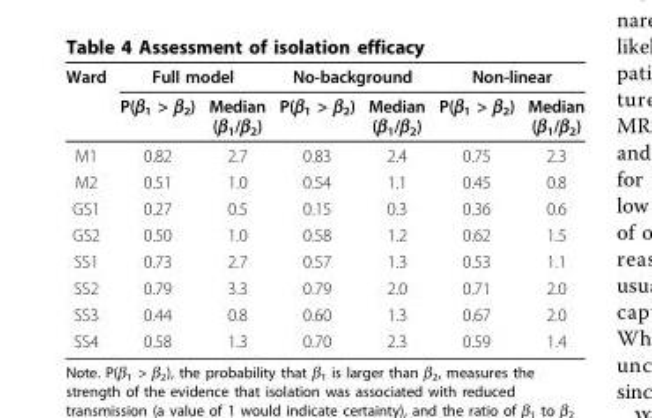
<table><thead><tr><td rowspan="2">Ward</td><td colspan="2">Full model</td><td colspan="2">No-background</td><td colspan="2">Non-linear</td></tr><tr><td>P(β<sub>1</sub> &gt; β<sub>2</sub>)</td><td>Median (β<sub>1</sub>/β<sub>2</sub>)</td><td>P(β<sub>1</sub> &gt; β<sub>2</sub>)</td><td>Median (β<sub>1</sub>/β<sub>2</sub>)</td><td>P(β<sub>1</sub> &gt; β<sub>2</sub>)</td><td>Median (β<sub>1</sub>/β<sub>2</sub>)</td></tr></thead><tbody><tr><td>M1</td><td>0.82</td><td>2.7</td><td>0.83</td><td>2.4</td><td>0.75</td><td>2.3</td></tr><tr><td>M2</td><td>0.51</td><td>1.0</td><td>0.54</td><td>1.1</td><td>0.45</td><td>0.8</td></tr><tr><td>GS1</td><td>0.27</td><td>0.5</td><td>0.15</td><td>0.3</td><td>0.36</td><td>0.6</td></tr><tr><td>GS2</td><td>0.50</td><td>1.0</td><td>0.58</td><td>1.2</td><td>0.62</td><td>1.5</td></tr><tr><td>SS1</td><td>0.73</td><td>2.7</td><td>0.57</td><td>1.3</td><td>0.53</td><td>1.1</td></tr><tr><td>SS2</td><td>0.79</td><td>3.3</td><td>0.79</td><td>2.0</td><td>0.71</td><td>2.0</td></tr><tr><td>SS3</td><td>0.44</td><td>0.8</td><td>0.60</td><td>1.3</td><td>0.67</td><td>2.0</td></tr><tr><td>SS4</td><td>0.58</td><td>1.3</td><td>0.70</td><td>2.3</td><td>0.59</td><td>1.4</td></tr></tbody></table>